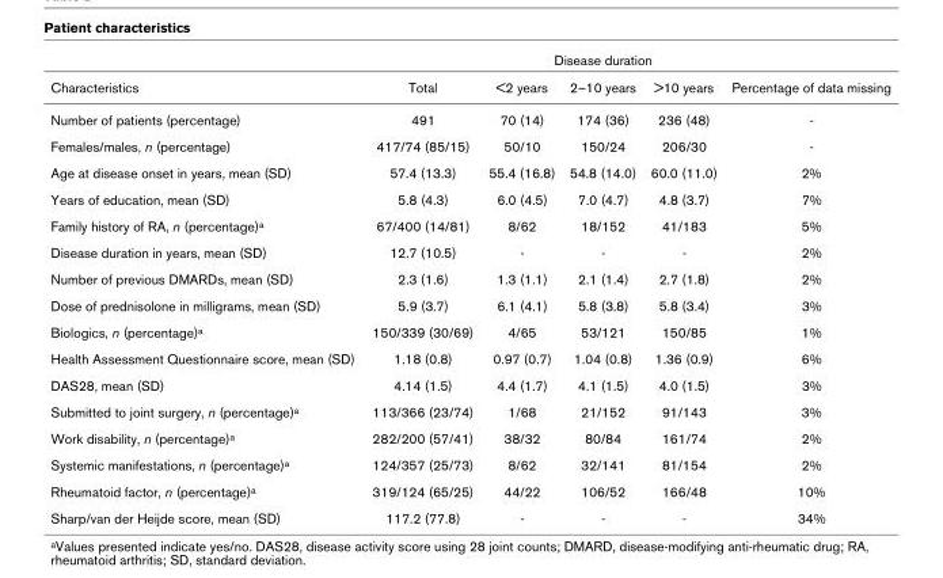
<table><thead><tr><td rowspan="2">Characteristics</td><td rowspan="2">Total</td><td colspan="3">Disease duration</td><td rowspan="2">Percentage of data missing</td></tr><tr><td>&lt;2 years</td><td>2–10 years</td><td>&gt;10 years</td></tr></thead><tbody><tr><td>Number of patients (percentage)</td><td>491</td><td>70 (14)</td><td>174 (36)</td><td>236 (48)</td><td>-</td></tr><tr><td>Females/males, n (percentage)</td><td>417/74 (85/15)</td><td>50/10</td><td>150/24</td><td>206/30</td><td>-</td></tr><tr><td>Age at disease onset in years, mean (SD)</td><td>57.4 (13.3)</td><td>55.4 (16.8)</td><td>54.8 (14.0)</td><td>60.0 (11.0)</td><td>2%</td></tr><tr><td>Years of education, mean (SD)</td><td>5.8 (4.3)</td><td>6.0 (4.5)</td><td>7.0 (4.7)</td><td>4.8 (3.7)</td><td>7%</td></tr><tr><td>Family history of RA, n (percentage)<sup>a</sup></td><td>67/400 (14/81)</td><td>8/62</td><td>18/152</td><td>41/183</td><td>5%</td></tr><tr><td>Disease duration in years, mean (SD)</td><td>12.7 (10.5)</td><td>-</td><td>-</td><td>-</td><td>2%</td></tr><tr><td>Number of previous DMARDs, mean (SD)</td><td>2.3 (1.6)</td><td>1.3 (1.1)</td><td>2.1 (1.4)</td><td>2.7 (1.8)</td><td>2%</td></tr><tr><td>Dose of prednisolone in milligrams, mean (SD)</td><td>5.9 (3.7)</td><td>6.1 (4.1)</td><td>5.8 (3.8)</td><td>5.8 (3.4)</td><td>3%</td></tr><tr><td>Biologics, n (percentage)<sup>a</sup></td><td>150/339 (30/69)</td><td>4/65</td><td>53/121</td><td>150/85</td><td>1%</td></tr><tr><td>Health Assessment Questionnaire score, mean (SD)</td><td>1.18 (0.8)</td><td>0.97 (0.7)</td><td>1.04 (0.8)</td><td>1.36 (0.9)</td><td>6%</td></tr><tr><td>DAS28, mean (SD)</td><td>4.14 (1.5)</td><td>4.4 (1.7)</td><td>4.1 (1.5)</td><td>4.0 (1.5)</td><td>3%</td></tr><tr><td>Submitted to joint surgery, n (percentage)<sup>a</sup></td><td>113/366 (23/74)</td><td>1/68</td><td>21/152</td><td>91/143</td><td>3%</td></tr><tr><td>Work disability, n (percentage)<sup>a</sup></td><td>282/200 (57/41)</td><td>38/32</td><td>80/84</td><td>161/74</td><td>2%</td></tr><tr><td>Systemic manifestations, n (percentage)<sup>a</sup></td><td>124/357 (25/73)</td><td>8/62</td><td>32/141</td><td>81/154</td><td>2%</td></tr><tr><td>Rheumatoid factor, n (percentage)<sup>a</sup></td><td>319/124 (65/25)</td><td>44/22</td><td>106/52</td><td>166/48</td><td>10%</td></tr><tr><td>Sharp/van der Heijde score, mean (SD)</td><td>117.2 (77.8)</td><td>-</td><td>-</td><td>-</td><td>34%</td></tr></tbody></table>